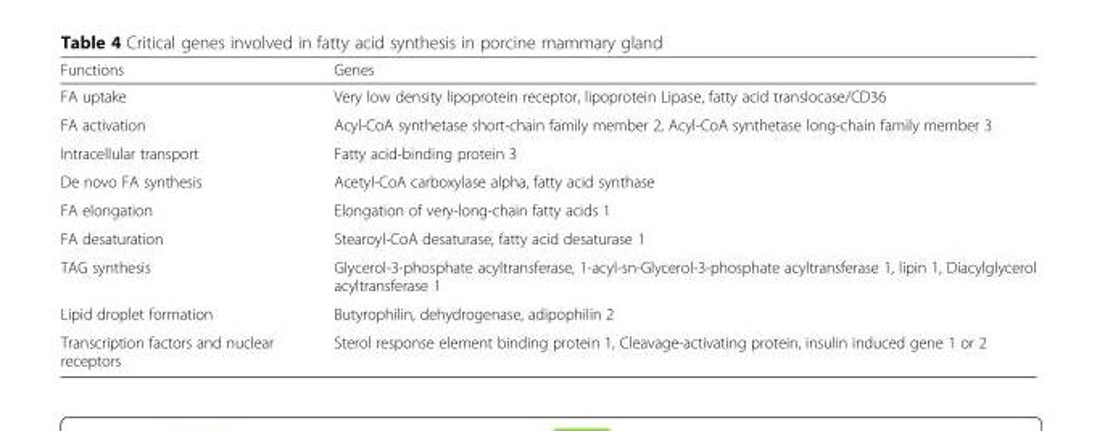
<table><thead><tr><td>Functions</td><td>Genes</td></tr></thead><tbody><tr><td>FA uptake</td><td>Very low density lipoprotein receptor, lipoprotein Lipase, fatty acid translocase/CD36</td></tr><tr><td>FA activation</td><td>Acyl-CoA synthetase short-chain family member 2, Acyl-CoA synthetase long-chain family member 3</td></tr><tr><td>Intracellular transport</td><td>Fatty acid-binding protein 3</td></tr><tr><td>De novo FA synthesis</td><td>Acetyl-CoA carboxylase alpha, fatty acid synthase</td></tr><tr><td>FA elongation</td><td>Elongation of very-long-chain fatty acids 1</td></tr><tr><td>FA desaturation</td><td>Stearoyl-CoA desaturase, fatty acid desaturase 1</td></tr><tr><td>TAG synthesis</td><td>Glycerol-3-phosphate acyltransferase, 1-acyl-sn-Glycerol-3-phosphate acyltransferase 1, lipin 1, Diacylglycerol acyltransferase 1</td></tr><tr><td>Lipid droplet formation</td><td>Butyrophilin, dehydrogenase, adipophilin 2</td></tr><tr><td>Transcription factors and nuclear receptors</td><td>Sterol response element binding protein 1, Cleavage-activating protein, insulin induced gene 1 or 2</td></tr></tbody></table>